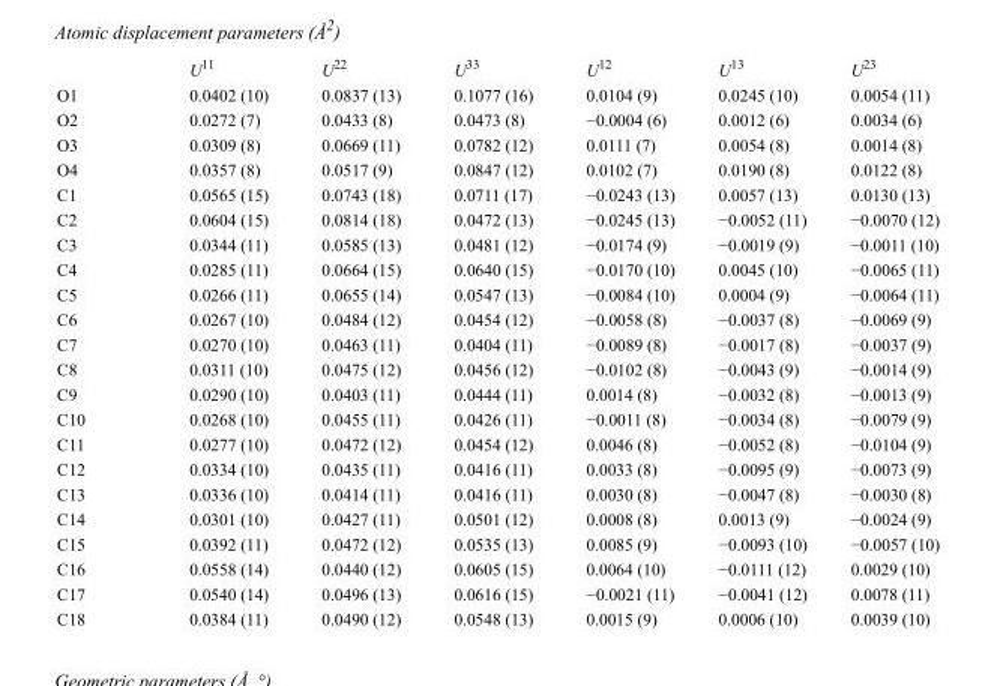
<table><thead><tr><td></td><td>U<sup>11</sup></td><td>U<sup>22</sup></td><td>U<sup>33</sup></td><td>U<sup>12</sup></td><td>U<sup>13</sup></td><td>U<sup>23</sup></td></tr></thead><tbody><tr><td>O1</td><td>0.0402 (10)</td><td>0.0837 (13)</td><td>0.1077 (16)</td><td>0.0104 (9)</td><td>0.0245 (10)</td><td>0.0054 (11)</td></tr><tr><td>O2</td><td>0.0272 (7)</td><td>0.0433 (8)</td><td>0.0473 (8)</td><td>−0.0004 (6)</td><td>0.0012 (6)</td><td>0.0034 (6)</td></tr><tr><td>O3</td><td>0.0309 (8)</td><td>0.0669 (11)</td><td>0.0782 (12)</td><td>0.0111 (7)</td><td>0.0054 (8)</td><td>0.0014 (8)</td></tr><tr><td>O4</td><td>0.0357 (8)</td><td>0.0517 (9)</td><td>0.0847 (12)</td><td>0.0102 (7)</td><td>0.0190 (8)</td><td>0.0122 (8)</td></tr><tr><td>C1</td><td>0.0565 (15)</td><td>0.0743 (18)</td><td>0.0711 (17)</td><td>−0.0243 (13)</td><td>0.0057 (13)</td><td>0.0130 (13)</td></tr><tr><td>C2</td><td>0.0604 (15)</td><td>0.0814 (18)</td><td>0.0472 (13)</td><td>−0.0245 (13)</td><td>−0.0052 (11)</td><td>−0.0070 (12)</td></tr><tr><td>C3</td><td>0.0344 (11)</td><td>0.0585 (13)</td><td>0.0481 (12)</td><td>−0.0174 (9)</td><td>−0.0019 (9)</td><td>−0.0011 (10)</td></tr><tr><td>C4</td><td>0.0285 (11)</td><td>0.0664 (15)</td><td>0.0640 (15)</td><td>−0.0170 (10)</td><td>0.0045 (10)</td><td>−0.0065 (11)</td></tr><tr><td>C5</td><td>0.0266 (11)</td><td>0.0655 (14)</td><td>0.0547 (13)</td><td>−0.0084 (10)</td><td>0.0004 (9)</td><td>−0.0064 (11)</td></tr><tr><td>C6</td><td>0.0267 (10)</td><td>0.0484 (12)</td><td>0.0454 (12)</td><td>−0.0058 (8)</td><td>−0.0037 (8)</td><td>−0.0069 (9)</td></tr><tr><td>C7</td><td>0.0270 (10)</td><td>0.0463 (11)</td><td>0.0404 (11)</td><td>−0.0089 (8)</td><td>−0.0017 (8)</td><td>−0.0037 (9)</td></tr><tr><td>C8</td><td>0.0311 (10)</td><td>0.0475 (12)</td><td>0.0456 (12)</td><td>−0.0102 (8)</td><td>−0.0043 (9)</td><td>−0.0014 (9)</td></tr><tr><td>C9</td><td>0.0290 (10)</td><td>0.0403 (11)</td><td>0.0444 (11)</td><td>0.0014 (8)</td><td>−0.0032 (8)</td><td>−0.0013 (9)</td></tr><tr><td>C10</td><td>0.0268 (10)</td><td>0.0455 (11)</td><td>0.0426 (11)</td><td>−0.0011 (8)</td><td>−0.0034 (8)</td><td>−0.0079 (9)</td></tr><tr><td>C11</td><td>0.0277 (10)</td><td>0.0472 (12)</td><td>0.0454 (12)</td><td>0.0046 (8)</td><td>−0.0052 (8)</td><td>−0.0104 (9)</td></tr><tr><td>C12</td><td>0.0334 (10)</td><td>0.0435 (11)</td><td>0.0416 (11)</td><td>0.0033 (8)</td><td>−0.0095 (9)</td><td>−0.0073 (9)</td></tr><tr><td>C13</td><td>0.0336 (10)</td><td>0.0414 (11)</td><td>0.0416 (11)</td><td>0.0030 (8)</td><td>−0.0047 (8)</td><td>−0.0030 (8)</td></tr><tr><td>C14</td><td>0.0301 (10)</td><td>0.0427 (11)</td><td>0.0501 (12)</td><td>0.0008 (8)</td><td>0.0013 (9)</td><td>−0.0024 (9)</td></tr><tr><td>C15</td><td>0.0392 (11)</td><td>0.0472 (12)</td><td>0.0535 (13)</td><td>0.0085 (9)</td><td>−0.0093 (10)</td><td>−0.0057 (10)</td></tr><tr><td>C16</td><td>0.0558 (14)</td><td>0.0440 (12)</td><td>0.0605 (15)</td><td>0.0064 (10)</td><td>−0.0111 (12)</td><td>0.0029 (10)</td></tr><tr><td>C17</td><td>0.0540 (14)</td><td>0.0496 (13)</td><td>0.0616 (15)</td><td>−0.0021 (11)</td><td>−0.0041 (12)</td><td>0.0078 (11)</td></tr><tr><td>C18</td><td>0.0384 (11)</td><td>0.0490 (12)</td><td>0.0548 (13)</td><td>0.0015 (9)</td><td>0.0006 (10)</td><td>0.0039 (10)</td></tr></tbody></table>